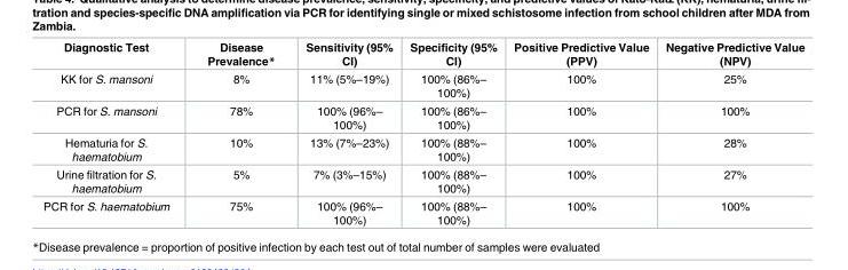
<table><thead><tr><td>Diagnostic Test</td><td>Disease Prevalence*</td><td>Sensitivity (95% CI)</td><td>Specificity (95% CI)</td><td>Positive Predictive Value (PPV)</td><td>Negative Predictive Value (NPV)</td></tr></thead><tbody><tr><td>KK for S. mansoni</td><td>8%</td><td>11% (5%–19%)</td><td>100% (86%– 100%)</td><td>100%</td><td>25%</td></tr><tr><td>PCR for S. mansoni</td><td>78%</td><td>100% (96%– 100%)</td><td>100% (86%– 100%)</td><td>100%</td><td>100%</td></tr><tr><td>Hematuria for S. haematobium</td><td>10%</td><td>13% (7%–23%)</td><td>100% (88%– 100%)</td><td>100%</td><td>28%</td></tr><tr><td>Urine filtration for S. haematobium</td><td>5%</td><td>7% (3%–15%)</td><td>100% (88%– 100%)</td><td>100%</td><td>27%</td></tr><tr><td>PCR for S. haematobium</td><td>75%</td><td>100% (96%– 100%)</td><td>100% (88%– 100%)</td><td>100%</td><td>100%</td></tr></tbody></table>